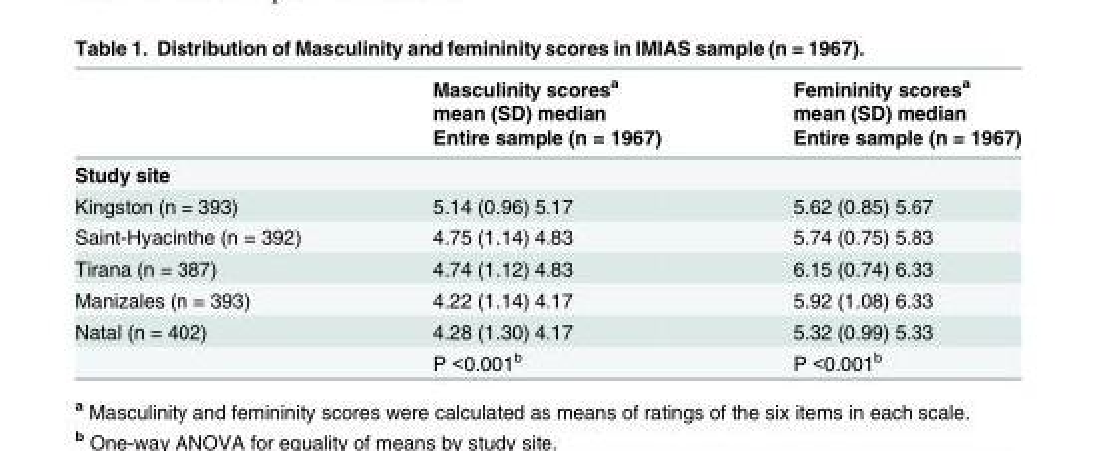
<table><thead><tr><td rowspan="3"></td><td rowspan="3">Masculinity scores<sup>a</sup> mean (SD) median Entire sample (n = 1967)</td><td rowspan="3">Femininity scores<sup>a</sup> mean (SD) median Entire sample (n = 1967)</td></tr><tr></tr><tr></tr></thead><tbody><tr><td colspan="3">Study site</td></tr><tr><td>Kingston (n = 393)</td><td>5.14 (0.96) 5.17</td><td>5.62 (0.85) 5.67</td></tr><tr><td>Saint-Hyacinthe (n = 392)</td><td>4.75 (1.14) 4.83</td><td>5.74 (0.75) 5.83</td></tr><tr><td>Tirana (n = 387)</td><td>4.74 (1.12) 4.83</td><td>6.15 (0.74) 6.33</td></tr><tr><td>Manizales (n = 393)</td><td>4.22 (1.14) 4.17</td><td>5.92 (1.08) 6.33</td></tr><tr><td rowspan="2">Natal (n = 402)</td><td>4.28 (1.30) 4.17</td><td>5.32 (0.99) 5.33</td></tr><tr><td>P &lt;0.001<sup>b</sup></td><td>P &lt;0.001<sup>b</sup></td></tr></tbody></table>